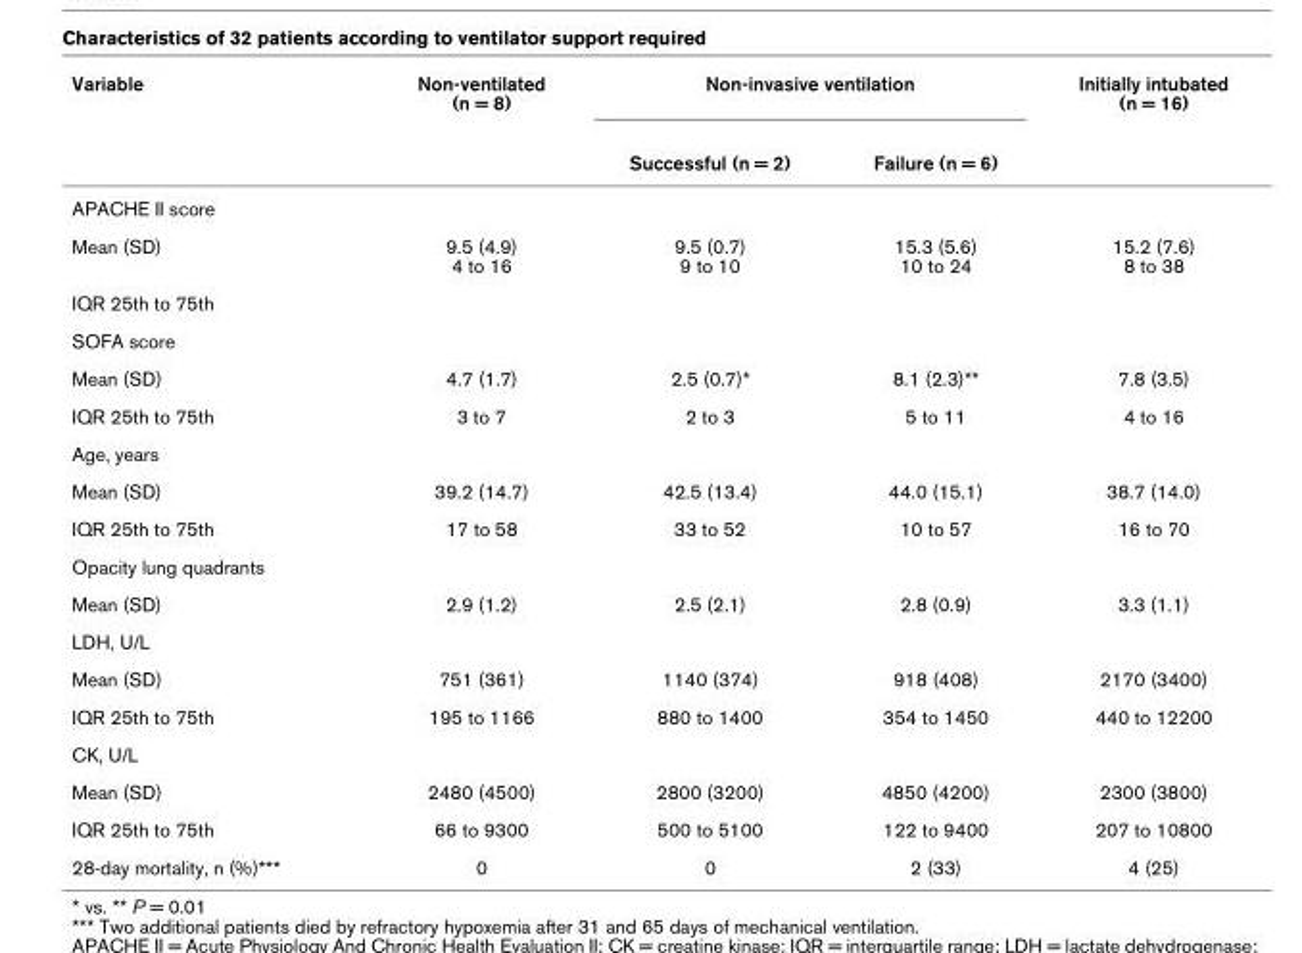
<table><thead><tr><td rowspan="2">Variable</td><td rowspan="2">Non-ventilated (n = 8)</td><td colspan="2">Non-invasive ventilation</td><td rowspan="2">Initially intubated (n = 16)</td></tr><tr><td>Successful (n = 2)</td><td>Failure (n = 6)</td></tr></thead><tbody><tr><td colspan="5">APACHE II score</td></tr><tr><td>Mean (SD)</td><td>9.5 (4.9) 4 to 16</td><td>9.5 (0.7) 9 to 10</td><td>15.3 (5.6) 10 to 24</td><td>15.2 (7.6) 8 to 38</td></tr><tr><td colspan="5">IQR 25th to 75th</td></tr><tr><td colspan="5">SOFA score</td></tr><tr><td>Mean (SD)</td><td>4.7 (1.7)</td><td>2.5 (0.7)*</td><td>8.1 (2.3)**</td><td>7.8 (3.5)</td></tr><tr><td>IQR 25th to 75th</td><td>3 to 7</td><td>2 to 3</td><td>5 to 11</td><td>4 to 16</td></tr><tr><td colspan="5">Age, years</td></tr><tr><td>Mean (SD)</td><td>39.2 (14.7)</td><td>42.5 (13.4)</td><td>44.0 (15.1)</td><td>38.7 (14.0)</td></tr><tr><td>IQR 25th to 75th</td><td>17 to 58</td><td>33 to 52</td><td>10 to 57</td><td>16 to 70</td></tr><tr><td colspan="5">Opacity lung quadrants</td></tr><tr><td>Mean (SD)</td><td>2.9 (1.2)</td><td>2.5 (2.1)</td><td>2.8 (0.9)</td><td>3.3 (1.1)</td></tr><tr><td colspan="5">LDH, U/L</td></tr><tr><td>Mean (SD)</td><td>751 (361)</td><td>1140 (374)</td><td>918 (408)</td><td>2170 (3400)</td></tr><tr><td>IQR 25th to 75th</td><td>195 to 1166</td><td>880 to 1400</td><td>354 to 1450</td><td>440 to 12200</td></tr><tr><td colspan="5">CK, U/L</td></tr><tr><td>Mean (SD)</td><td>2480 (4500)</td><td>2800 (3200)</td><td>4850 (4200)</td><td>2300 (3800)</td></tr><tr><td>IQR 25th to 75th</td><td>66 to 9300</td><td>500 to 5100</td><td>122 to 9400</td><td>207 to 10800</td></tr><tr><td>28-day mortality, n (%)***</td><td>0</td><td>0</td><td>2 (33)</td><td>4 (25)</td></tr></tbody></table>